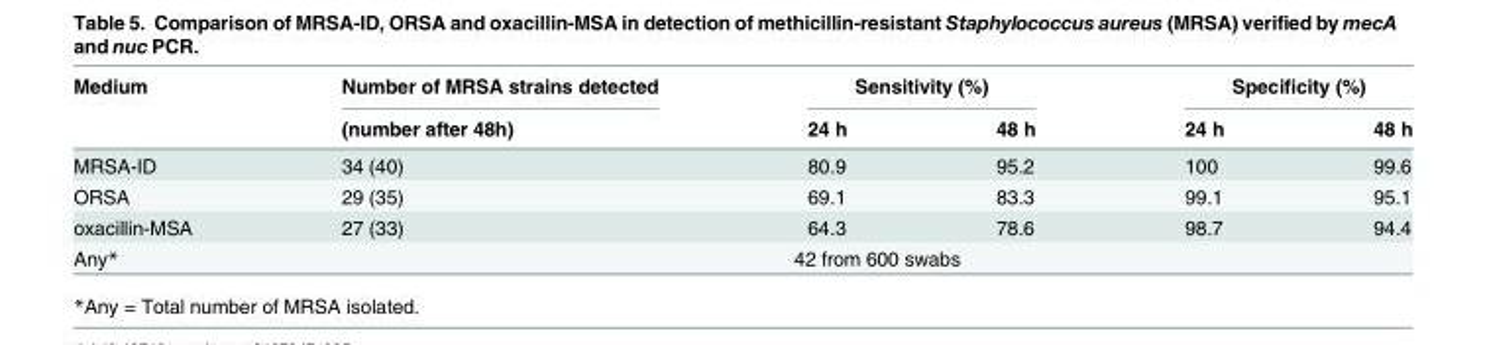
<table><thead><tr><td rowspan="2">Medium</td><td rowspan="2">Number of MRSA strains detected (number after 48h)</td><td colspan="2">Sensitivity (%)</td><td colspan="2">Specificity (%)</td></tr><tr><td>24 h</td><td>48 h</td><td>24 h</td><td>48 h</td></tr></thead><tbody><tr><td>MRSA-ID</td><td>34 (40)</td><td>80.9</td><td>95.2</td><td>100</td><td>99.6</td></tr><tr><td>ORSA</td><td>29 (35)</td><td>69.1</td><td>83.3</td><td>99.1</td><td>95.1</td></tr><tr><td>oxacillin-MSA</td><td>27 (33)</td><td>64.3</td><td>78.6</td><td>98.7</td><td>94.4</td></tr><tr><td>Any*</td><td colspan="5">42 from 600 swabs</td></tr></tbody></table>